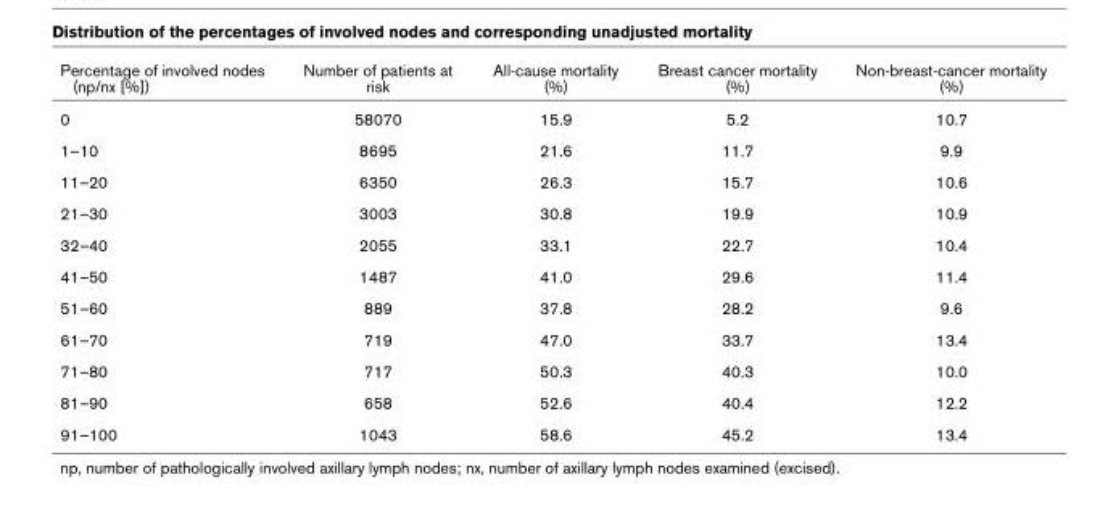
<table><thead><tr><td>Percentage of involved nodes (np/nx [%])</td><td>Number of patients at risk</td><td>All-cause mortality (%)</td><td>Breast cancer mortality (%)</td><td>Non-breast-cancer mortality (%)</td></tr></thead><tbody><tr><td>0</td><td>58070</td><td>15.9</td><td>5.2</td><td>10.7</td></tr><tr><td>1–10</td><td>8695</td><td>21.6</td><td>11.7</td><td>9.9</td></tr><tr><td>11–20</td><td>6350</td><td>26.3</td><td>15.7</td><td>10.6</td></tr><tr><td>21–30</td><td>3003</td><td>30.8</td><td>19.9</td><td>10.9</td></tr><tr><td>32–40</td><td>2055</td><td>33.1</td><td>22.7</td><td>10.4</td></tr><tr><td>41–50</td><td>1487</td><td>41.0</td><td>29.6</td><td>11.4</td></tr><tr><td>51–60</td><td>889</td><td>37.8</td><td>28.2</td><td>9.6</td></tr><tr><td>61–70</td><td>719</td><td>47.0</td><td>33.7</td><td>13.4</td></tr><tr><td>71–80</td><td>717</td><td>50.3</td><td>40.3</td><td>10.0</td></tr><tr><td>81–90</td><td>658</td><td>52.6</td><td>40.4</td><td>12.2</td></tr><tr><td>91–100</td><td>1043</td><td>58.6</td><td>45.2</td><td>13.4</td></tr></tbody></table>